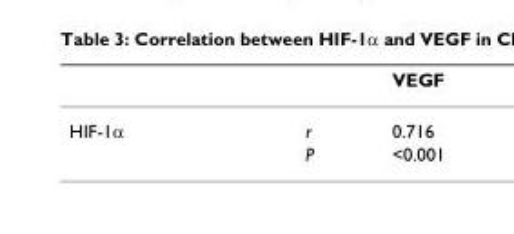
<table><thead><tr><td></td><td></td><td>VEGF</td></tr></thead><tbody><tr><td rowspan="2">HIF-1α</td><td>r</td><td>0.716</td></tr><tr><td>P</td><td>&lt;0.001</td></tr></tbody></table>